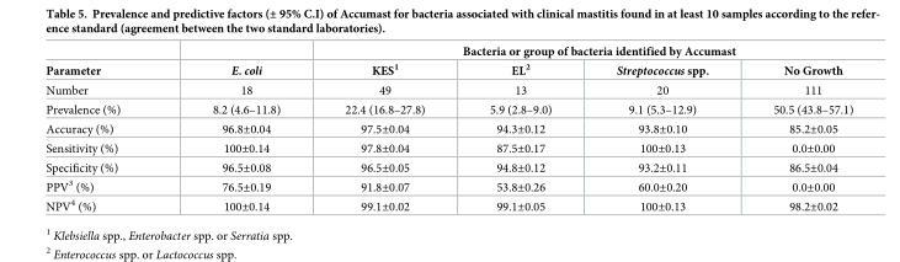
<table><thead><tr><td rowspan="2">Parameter</td><td rowspan="2">E. coli</td><td colspan="4">Bacteria or group of bacteria identified by Accumast</td></tr><tr><td>KES<sup>1</sup></td><td>EL<sup>2</sup></td><td>Streptococcus spp.</td><td>No Growth</td></tr></thead><tbody><tr><td>Number</td><td>18</td><td>49</td><td>13</td><td>20</td><td>111</td></tr><tr><td>Prevalence (%)</td><td>8.2 (4.6–11.8)</td><td>22.4 (16.8–27.8)</td><td>5.9 (2.8–9.0)</td><td>9.1 (5.3–12.9)</td><td>50.5 (43.8–57.1)</td></tr><tr><td>Accuracy (%)</td><td>96.8±0.04</td><td>97.5±0.04</td><td>94.3±0.12</td><td>93.8±0.10</td><td>85.2±0.05</td></tr><tr><td>Sensitivity (%)</td><td>100±0.14</td><td>97.8±0.04</td><td>87.5±0.17</td><td>100±0.13</td><td>0.0±0.00</td></tr><tr><td>Specificity (%)</td><td>96.5±0.08</td><td>96.5±0.05</td><td>94.8±0.12</td><td>93.2±0.11</td><td>86.5±0.04</td></tr><tr><td>PPV<sup>3</sup> (%)</td><td>76.5±0.19</td><td>91.8±0.07</td><td>53.8±0.26</td><td>60.0±0.20</td><td>0.0±0.00</td></tr><tr><td>NPV<sup>4</sup> (%)</td><td>100±0.14</td><td>99.1±0.02</td><td>99.1±0.05</td><td>100±0.13</td><td>98.2±0.02</td></tr></tbody></table>